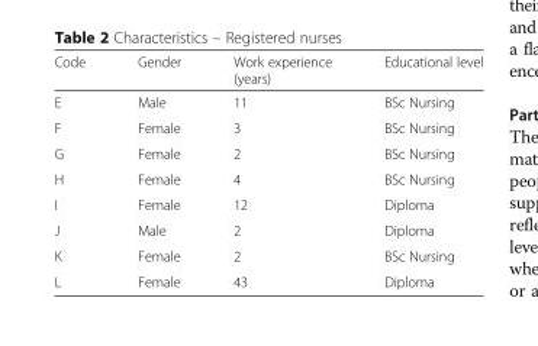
<table><thead><tr><td>Code</td><td>Gender</td><td>Work experience (years)</td><td>Educational level</td></tr></thead><tbody><tr><td>E</td><td>Male</td><td>11</td><td>BSc Nursing</td></tr><tr><td>F</td><td>Female</td><td>3</td><td>BSc Nursing</td></tr><tr><td>G</td><td>Female</td><td>2</td><td>BSc Nursing</td></tr><tr><td>H</td><td>Female</td><td>4</td><td>BSc Nursing</td></tr><tr><td>I</td><td>Female</td><td>12</td><td>Diploma</td></tr><tr><td>J</td><td>Male</td><td>2</td><td>Diploma</td></tr><tr><td>K</td><td>Female</td><td>2</td><td>BSc Nursing</td></tr><tr><td>L</td><td>Female</td><td>43</td><td>Diploma</td></tr></tbody></table>